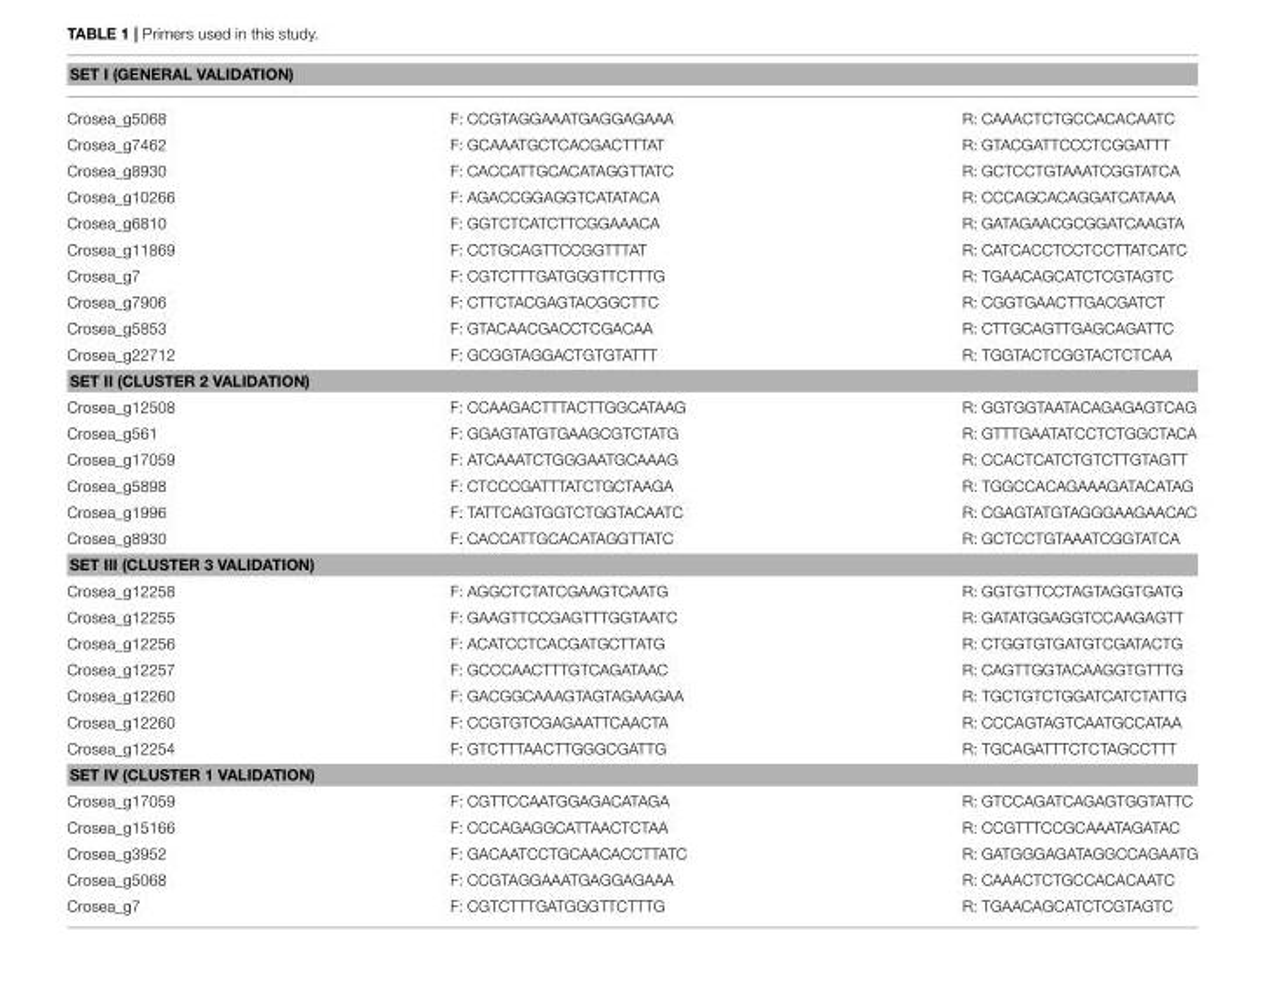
<table><thead><tr><td colspan="3">SET I (GENERAL VALIDATION)</td></tr><tr><td>Crosea_g5068</td><td>F: CCGTAGGAAATGAGGAGAAA</td><td>R: CAAACTCTGCCACACAATC</td></tr></thead><tbody><tr><td>Crosea_g7462</td><td>F: GCAAATGCTCACGACTTTAT</td><td>R: GTACGATTCCCTCGGATTT</td></tr><tr><td>Crosea_g8930</td><td>F: CACCATTGCACATAGGTTATC</td><td>R: GCTCCTGTAAATCGGTATCA</td></tr><tr><td>Crosea_g10266</td><td>F: AGACCGGAGGTCATATACA</td><td>R: CCCAGCACAGGATCATAAA</td></tr><tr><td>Crosea_g6810</td><td>F: GGTCTCATCTTCGGAAACA</td><td>R: GATAGAACGCGGATCAAGTA</td></tr><tr><td>Crosea_g11869</td><td>F: CCTGCAGTTCCGGTTTAT</td><td>R: CATCACCTCCTCCTTATCATC</td></tr><tr><td>Crosea_g7</td><td>F: CGTCTTTGATGGGTTCTTTG</td><td>R: TGAACAGCATCTCGTAGTC</td></tr><tr><td>Crosea_g7906</td><td>F: CTTCTACGAGTACGGCTTC</td><td>R: CGGTGAACTTGACGATCT</td></tr><tr><td>Crosea_g5853</td><td>F: GTACAACGACCTCGACAA</td><td>R: CTTGCAGTTGAGCAGATTC</td></tr><tr><td>Crosea_g22712</td><td>F: GCGGTAGGACTGTGTATTT</td><td>R: TGGTACTCGGTACTCTCAA</td></tr><tr><td colspan="3">SET II (CLUSTER 2 VALIDATION)</td></tr><tr><td>Crosea_g12508</td><td>F: CCAAGACTTTACTTGGCATAAG</td><td>R: GGTGGTAATACAGAGAGTCAG</td></tr><tr><td>Crosea_g561</td><td>F: GGAGTATGTGAAGCGTCTATG</td><td>R: GTTTGAATATCCTCTGGCTACA</td></tr><tr><td>Crosea_g17059</td><td>F: ATCAAATCTGGGAATGCAAAG</td><td>R: CCACTCATCTGTCTTGTAGTT</td></tr><tr><td>Crosea_g5898</td><td>F: CTCCCGATTTATCTGCTAAGA</td><td>R: TGGCCACAGAAAGATACATAG</td></tr><tr><td>Crosea_g1996</td><td>F: TATTCAGTGGTCTGGTACAATC</td><td>R: CGAGTATGTAGGGAAGAACAC</td></tr><tr><td>Crosea_g8930</td><td>F: CACCATTGCACATAGGTTATC</td><td>R: GCTCCTGTAAATCGGTATCA</td></tr><tr><td colspan="3">SET III (CLUSTER 3 VALIDATION)</td></tr><tr><td>Crosea_g12258</td><td>F: AGGCTCTATCGAAGTCAATG</td><td>R: GGTGTTCCTAGTAGGTGATG</td></tr><tr><td>Crosea_g12255</td><td>F: GAAGTTCCGAGTTTGGTAATC</td><td>R: GATATGGAGGTCCAAGAGTT</td></tr><tr><td>Crosea_g12256</td><td>F: ACATCCTCACGATGCTTATG</td><td>R: CTGGTGTGATGTCGATACTG</td></tr><tr><td>Crosea_g12257</td><td>F: GCCCAACTTTGTCAGATAAC</td><td>R: CAGTTGGTACAAGGTGTTTG</td></tr><tr><td>Crosea_g12260</td><td>F: GACGGCAAAGTAGTAGAAGAA</td><td>R: TGCTGTCTGGATCATCTATTG</td></tr><tr><td>Crosea_g12260</td><td>F: CCGTGTCGAGAATTCAACTA</td><td>R: CCCAGTAGTCAATGCCATAA</td></tr><tr><td>Crosea_g12254</td><td>F: GTCTTTAACTTGGGCGATTG</td><td>R: TGCAGATTTCTCTAGCCTTT</td></tr><tr><td colspan="3">SET IV (CLUSTER 1 VALIDATION)</td></tr><tr><td>Crosea_g17059</td><td>F: CGTTCCAATGGAGACATAGA</td><td>R: GTCCAGATCAGAGTGGTATTC</td></tr><tr><td>Crosea_g15166</td><td>F: CCCAGAGGCATTAACTCTAA</td><td>R: CCGTTTCCGCAAATAGATAC</td></tr><tr><td>Crosea_g3952</td><td>F: GACAATCCTGCAACACCTTATC</td><td>R: GATGGGAGATAGGCCAGAATG</td></tr><tr><td>Crosea_g5068</td><td>F: CCGTAGGAAATGAGGAGAAA</td><td>R: CAAACTCTGCCACACAATC</td></tr><tr><td>Crosea_g7</td><td>F: CGTCTTTGATGGGTTCTTTG</td><td>R: TGAACAGCATCTCGTAGTC</td></tr></tbody></table>